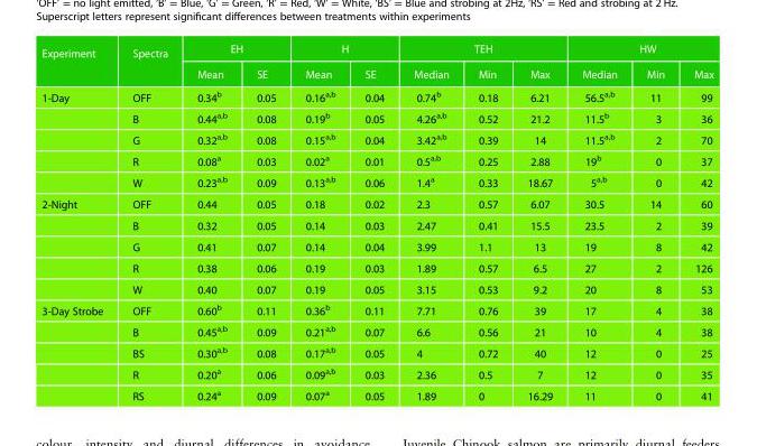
<table><thead><tr><td rowspan="2">Experiment</td><td rowspan="2">Spectra</td><td colspan="2">EH</td><td colspan="2">H</td><td colspan="3">TEH</td><td colspan="3">HW</td></tr><tr><td>Mean</td><td>SE</td><td>Mean</td><td>SE</td><td>Median</td><td>Min</td><td>Max</td><td>Median</td><td>Min</td><td>Max</td></tr></thead><tbody><tr><td rowspan="5">1-Day</td><td>OFF</td><td>0.34<sup>b</sup></td><td>0.05</td><td>0.16<sup>a,b</sup></td><td>0.04</td><td>0.74<sup>b</sup></td><td>0.18</td><td>6.21</td><td>56.5<sup>a,b</sup></td><td>11</td><td>99</td></tr><tr><td>B</td><td>0.44<sup>a,b</sup></td><td>0.08</td><td>0.19<sup>b</sup></td><td>0.05</td><td>4.26<sup>a,b</sup></td><td>0.52</td><td>21.2</td><td>11.5<sup>b</sup></td><td>3</td><td>36</td></tr><tr><td>G</td><td>0.32<sup>a,b</sup></td><td>0.08</td><td>0.15<sup>a,b</sup></td><td>0.04</td><td>3.42<sup>a,b</sup></td><td>0.39</td><td>14</td><td>11.5<sup>a,b</sup></td><td>2</td><td>70</td></tr><tr><td>R</td><td>0.08<sup>a</sup></td><td>0.03</td><td>0.02<sup>a</sup></td><td>0.01</td><td>0.5<sup>a,b</sup></td><td>0.25</td><td>2.88</td><td>19<sup>b</sup></td><td>0</td><td>37</td></tr><tr><td>W</td><td>0.23<sup>a,b</sup></td><td>0.09</td><td>0.13<sup>a,b</sup></td><td>0.06</td><td>1.4<sup>a</sup></td><td>0.33</td><td>18.67</td><td>5<sup>a,b</sup></td><td>0</td><td>42</td></tr><tr><td rowspan="5">2-Night</td><td>OFF</td><td>0.44</td><td>0.05</td><td>0.18</td><td>0.02</td><td>2.3</td><td>0.57</td><td>6.07</td><td>30.5</td><td>14</td><td>60</td></tr><tr><td>B</td><td>0.32</td><td>0.05</td><td>0.14</td><td>0.03</td><td>2.47</td><td>0.41</td><td>15.5</td><td>23.5</td><td>2</td><td>39</td></tr><tr><td>G</td><td>0.41</td><td>0.07</td><td>0.14</td><td>0.04</td><td>3.99</td><td>1.1</td><td>13</td><td>19</td><td>8</td><td>42</td></tr><tr><td>R</td><td>0.38</td><td>0.06</td><td>0.19</td><td>0.03</td><td>1.89</td><td>0.57</td><td>6.5</td><td>27</td><td>2</td><td>126</td></tr><tr><td>W</td><td>0.40</td><td>0.07</td><td>0.19</td><td>0.05</td><td>3.15</td><td>0.53</td><td>9.2</td><td>20</td><td>8</td><td>53</td></tr><tr><td rowspan="5">3-Day Strobe</td><td>OFF</td><td>0.60<sup>b</sup></td><td>0.11</td><td>0.36<sup>b</sup></td><td>0.11</td><td>7.71</td><td>0.76</td><td>39</td><td>17</td><td>4</td><td>38</td></tr><tr><td>B</td><td>0.45<sup>a,b</sup></td><td>0.09</td><td>0.21<sup>a,b</sup></td><td>0.07</td><td>6.6</td><td>0.56</td><td>21</td><td>10</td><td>4</td><td>38</td></tr><tr><td>BS</td><td>0.30<sup>a,b</sup></td><td>0.08</td><td>0.17<sup>a,b</sup></td><td>0.05</td><td>4</td><td>0.72</td><td>40</td><td>12</td><td>0</td><td>25</td></tr><tr><td>R</td><td>0.20<sup>a</sup></td><td>0.06</td><td>0.09<sup>a,b</sup></td><td>0.03</td><td>2.36</td><td>0.5</td><td>7</td><td>12</td><td>0</td><td>35</td></tr><tr><td>RS</td><td>0.24<sup>a</sup></td><td>0.09</td><td>0.07<sup>a</sup></td><td>0.05</td><td>1.89</td><td>0</td><td>16.29</td><td>11</td><td>0</td><td>41</td></tr></tbody></table>